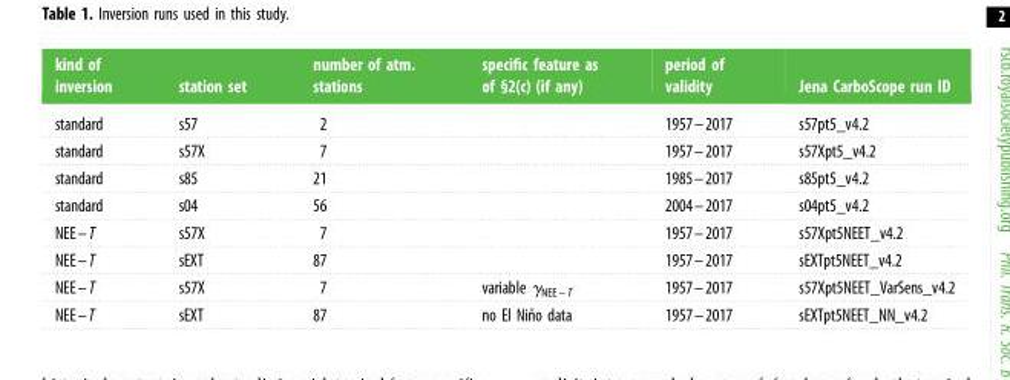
<table><thead><tr><td>kind of inversion</td><td>station set</td><td>number of atm. stations</td><td>specific feature as of §2(c) (if any)</td><td>period of validity</td><td>Jena CarboScope run ID</td></tr></thead><tbody><tr><td>standard</td><td>s57</td><td>2</td><td></td><td>1957–2017</td><td>s57pt5_v4.2</td></tr><tr><td>standard</td><td>s57X</td><td>7</td><td></td><td>1957–2017</td><td>s57Xpt5_v4.2</td></tr><tr><td>standard</td><td>s85</td><td>21</td><td></td><td>1985–2017</td><td>s85pt5_v4.2</td></tr><tr><td>standard</td><td>s04</td><td>56</td><td></td><td>2004–2017</td><td>s04pt5_v4.2</td></tr><tr><td>NEE–T</td><td>s57X</td><td>7</td><td></td><td>1957–2017</td><td>s57Xpt5NEET_v4.2</td></tr><tr><td>NEE–T</td><td>sEXT</td><td>87</td><td></td><td>1957–2017</td><td>sEXTpt5NEET_v4.2</td></tr><tr><td>NEE–T</td><td>s57X</td><td>7</td><td>variable γ<sub>NEE–T</sub></td><td>1957–2017</td><td>s57Xpt5NEET_VarSens_v4.2</td></tr><tr><td>NEE–T</td><td>sEXT</td><td>87</td><td>no El Nin˜o data</td><td>1957–2017</td><td>sEXTpt5NEET_NN_v4.2</td></tr></tbody></table>